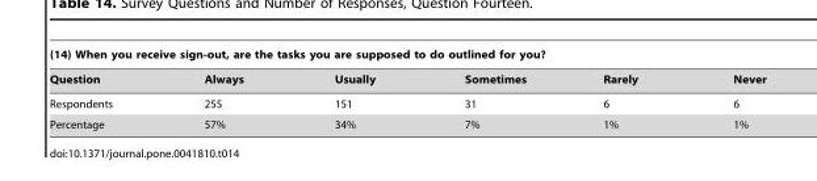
<table><thead><tr><td colspan="6">(14) When you receive sign-out, are the tasks you are supposed to do outlined for you?</td></tr><tr><td>Question</td><td>Always</td><td>Usually</td><td>Sometimes</td><td>Rarely</td><td>Never</td></tr></thead><tbody><tr><td>Respondents</td><td>255</td><td>151</td><td>31</td><td>6</td><td>6</td></tr><tr><td>Percentage</td><td>57%</td><td>34%</td><td>7%</td><td>1%</td><td>1%</td></tr></tbody></table>